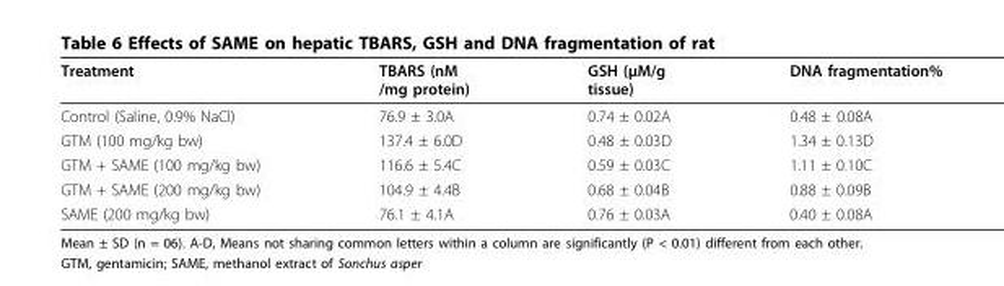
<table><thead><tr><td>Treatment</td><td>TBARS (nM /mg protein)</td><td>GSH (μM/g tissue)</td><td>DNA fragmentation%</td></tr></thead><tbody><tr><td>Control (Saline, 0.9% NaCl)</td><td>76.9 ± 3.0A</td><td>0.74 ± 0.02A</td><td>0.48 ± 0.08A</td></tr><tr><td>GTM (100 mg/kg bw)</td><td>137.4 ± 6.0D</td><td>0.48 ± 0.03D</td><td>1.34 ± 0.13D</td></tr><tr><td>GTM + SAME (100 mg/kg bw)</td><td>116.6 ± 5.4C</td><td>0.59 ± 0.03C</td><td>1.11 ± 0.10C</td></tr><tr><td>GTM + SAME (200 mg/kg bw)</td><td>104.9 ± 4.4B</td><td>0.68 ± 0.04B</td><td>0.88 ± 0.09B</td></tr><tr><td>SAME (200 mg/kg bw)</td><td>76.1 ± 4.1A</td><td>0.76 ± 0.03A</td><td>0.40 ± 0.08A</td></tr></tbody></table>